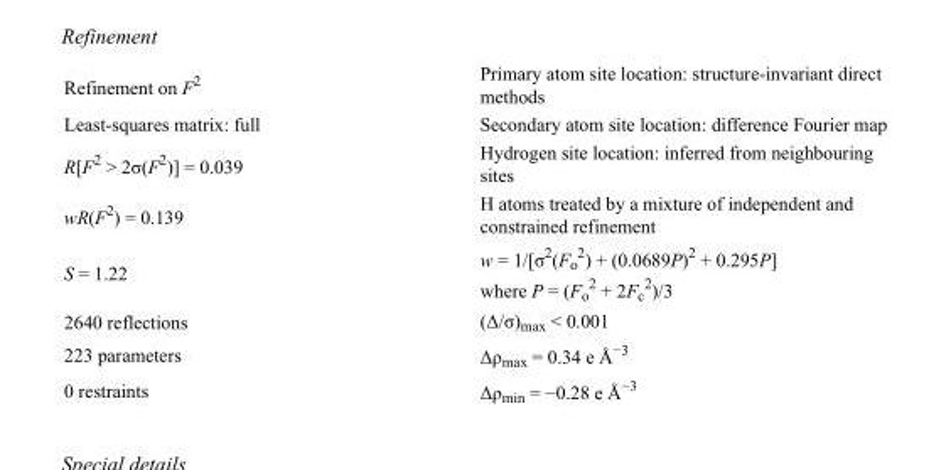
<table><tbody><tr><td>Refinement on F<sup>2</sup></td><td>Primary atom site location: structure-invariant direct methods</td></tr><tr><td>Least-squares matrix: full</td><td>Secondary atom site location: difference Fourier map</td></tr><tr><td>R[F<sup>2</sup> &gt; 2σ(F<sup>2</sup>)] = 0.039</td><td>Hydrogen site location: inferred from neighbouring sites</td></tr><tr><td>wR(F<sup>2</sup>) = 0.139</td><td>H atoms treated by a mixture of independent and constrained refinement</td></tr><tr><td>S = 1.22</td><td>w = 1/[σ<sup>2</sup>(F<sub>o</sub> <sup>2</sup>) + (0.0689P)<sup>2</sup> + 0.295P] where P = (F<sub>o</sub> <sup>2</sup> + 2F<sub>c</sub> <sup>2</sup>)/3</td></tr><tr><td>2640 reflections</td><td>(Δ/σ)<sub>max</sub> &lt; 0.001</td></tr><tr><td>223 parameters</td><td>Δρ<sub>max</sub> = 0.34 e Å<sup>−3</sup></td></tr><tr><td>0 restraints</td><td>Δρ<sub>min</sub> = −0.28 e Å<sup>−3</sup></td></tr></tbody></table>